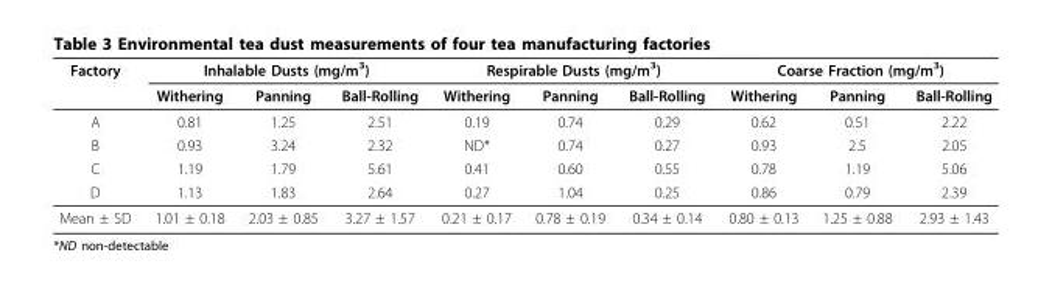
<table><thead><tr><td rowspan="2">Factory</td><td colspan="3">Inhalable Dusts (mg/m<sup>3</sup>)</td><td colspan="3">Respirable Dusts (mg/m<sup>3</sup>)</td><td colspan="3">Coarse Fraction (mg/m<sup>3</sup>)</td></tr><tr><td>Withering</td><td>Panning</td><td>Ball-Rolling</td><td>Withering</td><td>Panning</td><td>Ball-Rolling</td><td>Withering</td><td>Panning</td><td>Ball-Rolling</td></tr></thead><tbody><tr><td>A</td><td>0.81</td><td>1.25</td><td>2.51</td><td>0.19</td><td>0.74</td><td>0.29</td><td>0.62</td><td>0.51</td><td>2.22</td></tr><tr><td>B</td><td>0.93</td><td>3.24</td><td>2.32</td><td>ND*</td><td>0.74</td><td>0.27</td><td>0.93</td><td>2.5</td><td>2.05</td></tr><tr><td>C</td><td>1.19</td><td>1.79</td><td>5.61</td><td>0.41</td><td>0.60</td><td>0.55</td><td>0.78</td><td>1.19</td><td>5.06</td></tr><tr><td>D</td><td>1.13</td><td>1.83</td><td>2.64</td><td>0.27</td><td>1.04</td><td>0.25</td><td>0.86</td><td>0.79</td><td>2.39</td></tr><tr><td>Mean ± SD</td><td>1.01 ± 0.18</td><td>2.03 ± 0.85</td><td>3.27 ± 1.57</td><td>0.21 ± 0.17</td><td>0.78 ± 0.19</td><td>0.34 ± 0.14</td><td>0.80 ± 0.13</td><td>1.25 ± 0.88</td><td>2.93 ± 1.43</td></tr></tbody></table>